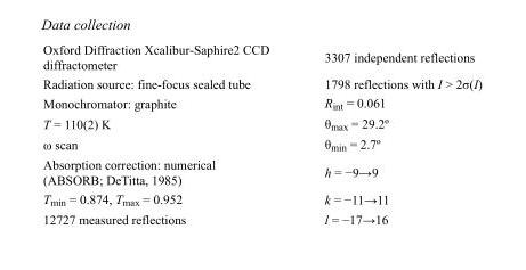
<table><tbody><tr><td>Oxford Diffraction Xcalibur-Saphire2 CCD diffractometer</td><td>3307 independent reflections</td></tr><tr><td>Radiation source: fine-focus sealed tube</td><td>1798 reflections with I &gt; 2σ(I)</td></tr><tr><td>Monochromator: graphite</td><td>R<sub>int</sub> = 0.061</td></tr><tr><td>T = 110(2) K</td><td>θ<sub>max</sub> = 29.2º</td></tr><tr><td>ω scan</td><td>θ<sub>min</sub> = 2.7º</td></tr><tr><td>Absorption correction: numerical (ABSORB; DeTitta, 1985)</td><td>h = −9→9</td></tr><tr><td>T<sub>min</sub> = 0.874, T<sub>max</sub> = 0.952</td><td>k = −11→11</td></tr><tr><td>12727 measured reflections</td><td>l = −17→16</td></tr></tbody></table>